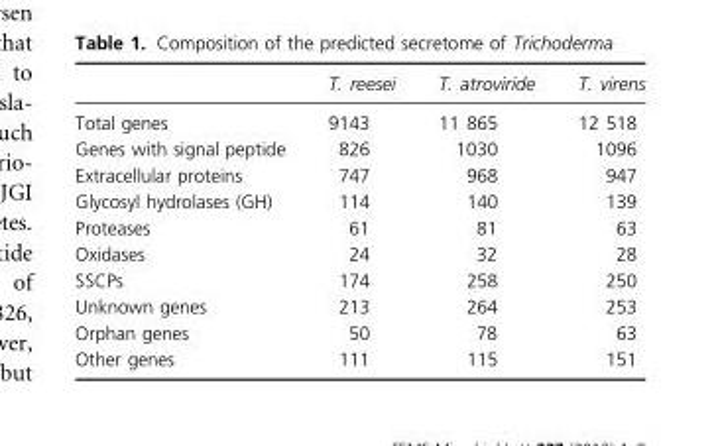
<table><thead><tr><td></td><td>T. reesei</td><td>T. atroviride</td><td>T. virens</td></tr></thead><tbody><tr><td>Total genes</td><td>9143</td><td>11 865</td><td>12 518</td></tr><tr><td>Genes with signal peptide</td><td>826</td><td>1030</td><td>1096</td></tr><tr><td>Extracellular proteins</td><td>747</td><td>968</td><td>947</td></tr><tr><td>Glycosyl hydrolases (GH)</td><td>114</td><td>140</td><td>139</td></tr><tr><td>Proteases</td><td>61</td><td>81</td><td>63</td></tr><tr><td>Oxidases</td><td>24</td><td>32</td><td>28</td></tr><tr><td>SSCPs</td><td>174</td><td>258</td><td>250</td></tr><tr><td>Unknown genes</td><td>213</td><td>264</td><td>253</td></tr><tr><td>Orphan genes</td><td>50</td><td>78</td><td>63</td></tr><tr><td>Other genes</td><td>111</td><td>115</td><td>151</td></tr></tbody></table>